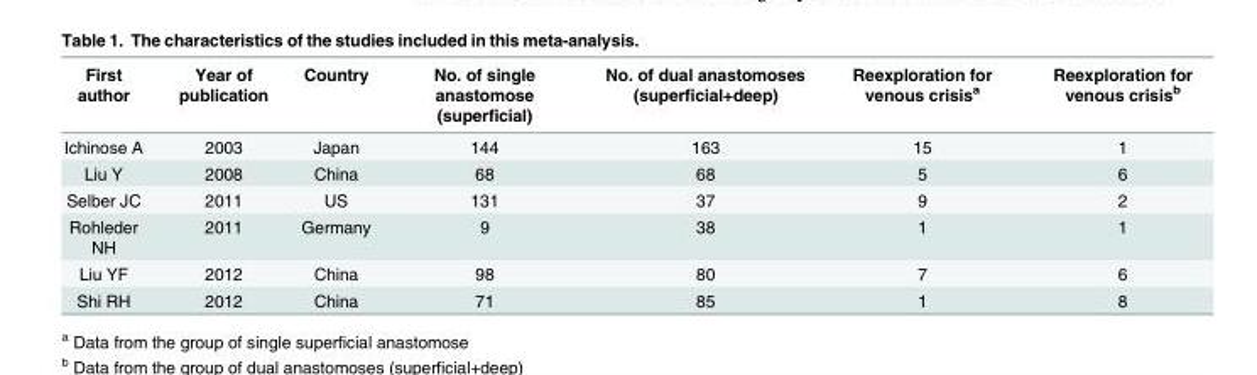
<table><thead><tr><td>First author</td><td>Year of publication</td><td>Country</td><td>No. of single anastomose (superficial)</td><td>No. of dual anastomoses (superficial+deep)</td><td>Reexploration for venous crisis<sup>a</sup></td><td>Reexploration for venous crisis<sup>b</sup></td></tr></thead><tbody><tr><td>Ichinose A</td><td>2003</td><td>Japan</td><td>144</td><td>163</td><td>15</td><td>1</td></tr><tr><td>Liu Y</td><td>2008</td><td>China</td><td>68</td><td>68</td><td>5</td><td>6</td></tr><tr><td>Selber JC</td><td>2011</td><td>US</td><td>131</td><td>37</td><td>9</td><td>2</td></tr><tr><td>Rohleder NH</td><td>2011</td><td>Germany</td><td>9</td><td>38</td><td>1</td><td>1</td></tr><tr><td>Liu YF</td><td>2012</td><td>China</td><td>98</td><td>80</td><td>7</td><td>6</td></tr><tr><td>Shi RH</td><td>2012</td><td>China</td><td>71</td><td>85</td><td>1</td><td>8</td></tr></tbody></table>